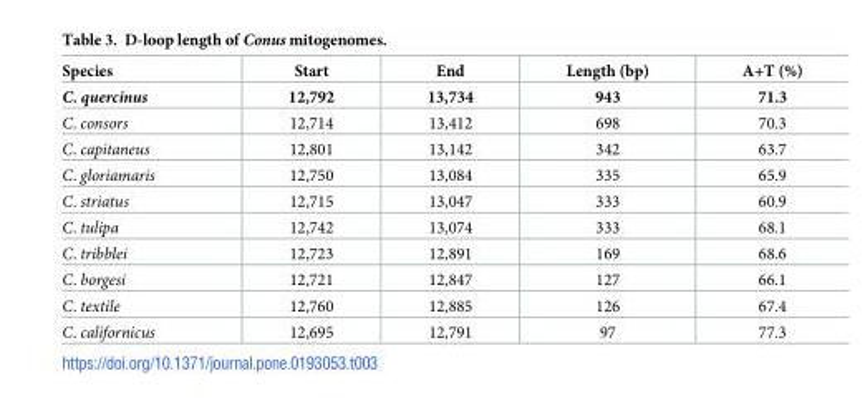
<table><thead><tr><td>Species</td><td>Start</td><td>End</td><td>Length (bp)</td><td>A+T (%)</td></tr></thead><tbody><tr><td>C. quercinus</td><td>12,792</td><td>13,734</td><td>943</td><td>71.3</td></tr><tr><td>C. consors</td><td>12,714</td><td>13,412</td><td>698</td><td>70.3</td></tr><tr><td>C. capitaneus</td><td>12,801</td><td>13,142</td><td>342</td><td>63.7</td></tr><tr><td>C. gloriamaris</td><td>12,750</td><td>13,084</td><td>335</td><td>65.9</td></tr><tr><td>C. striatus</td><td>12,715</td><td>13,047</td><td>333</td><td>60.9</td></tr><tr><td>C. tulipa</td><td>12,742</td><td>13,074</td><td>333</td><td>68.1</td></tr><tr><td>C. tribblei</td><td>12,723</td><td>12,891</td><td>169</td><td>68.6</td></tr><tr><td>C. borgesi</td><td>12,721</td><td>12,847</td><td>127</td><td>66.1</td></tr><tr><td>C. textile</td><td>12,760</td><td>12,885</td><td>126</td><td>67.4</td></tr><tr><td>C. californicus</td><td>12,695</td><td>12,791</td><td>97</td><td>77.3</td></tr></tbody></table>